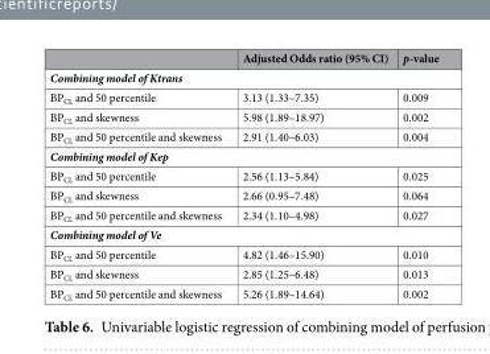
<table><thead><tr><td></td><td>Adjusted Odds ratio (95% CI)</td><td>p-value</td></tr></thead><tbody><tr><td colspan="3">Combining model of Ktrans</td></tr><tr><td>BP<sub>CL</sub> and 50 percentile</td><td>3.13 (1.33–7.35)</td><td>0.009</td></tr><tr><td>BP<sub>CL</sub> and skewness</td><td>5.98 (1.89–18.97)</td><td>0.002</td></tr><tr><td>BP<sub>CL</sub> and 50 percentile and skewness</td><td>2.91 (1.40–6.03)</td><td>0.004</td></tr><tr><td colspan="3">Combining model of Kep</td></tr><tr><td>BP<sub>CL</sub> and 50 percentile</td><td>2.56 (1.13–5.84)</td><td>0.025</td></tr><tr><td>BP<sub>CL</sub> and skewness</td><td>2.66 (0.95–7.48)</td><td>0.064</td></tr><tr><td>BP<sub>CL</sub> and 50 percentile and skewness</td><td>2.34 (1.10–4.98)</td><td>0.027</td></tr><tr><td colspan="3">Combining model of Ve</td></tr><tr><td>BP<sub>CL</sub> and 50 percentile</td><td>4.82 (1.46–15.90)</td><td>0.010</td></tr><tr><td>BP<sub>CL</sub> and skewness</td><td>2.85 (1.25–6.48)</td><td>0.013</td></tr><tr><td>BP<sub>CL</sub> and 50 percentile and skewness</td><td>5.26 (1.89–14.64)</td><td>0.002</td></tr></tbody></table>